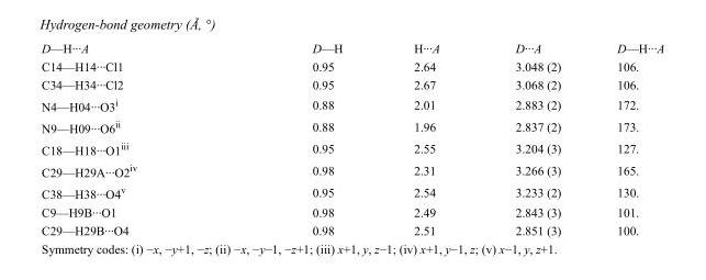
<table><tbody><tr><td>D—H···A</td><td>D—H</td><td>H···A</td><td>D···A</td><td>D—H···A</td></tr><tr><td>C14—H14···Cl1</td><td>0.95</td><td>2.64</td><td>3.048 (2)</td><td>106.</td></tr><tr><td>C34—H34···Cl2</td><td>0.95</td><td>2.67</td><td>3.068 (2)</td><td>106.</td></tr><tr><td>N4—H04···O3<sup>i</sup></td><td>0.88</td><td>2.01</td><td>2.883 (2)</td><td>172.</td></tr><tr><td>N9—H09···O6<sup>ii</sup></td><td>0.88</td><td>1.96</td><td>2.837 (2)</td><td>173.</td></tr><tr><td>C18—H18···O1<sup>iii</sup></td><td>0.95</td><td>2.55</td><td>3.204 (3)</td><td>127.</td></tr><tr><td>C29—H29A···O2<sup>iv</sup></td><td>0.98</td><td>2.31</td><td>3.266 (3)</td><td>165.</td></tr><tr><td>C38—H38···O4<sup>v</sup></td><td>0.95</td><td>2.54</td><td>3.233 (2)</td><td>130.</td></tr><tr><td>C9—H9B···O1</td><td>0.98</td><td>2.49</td><td>2.843 (3)</td><td>101.</td></tr><tr><td>C29—H29B···O4</td><td>0.98</td><td>2.51</td><td>2.851 (3)</td><td>100.</td></tr></tbody></table>